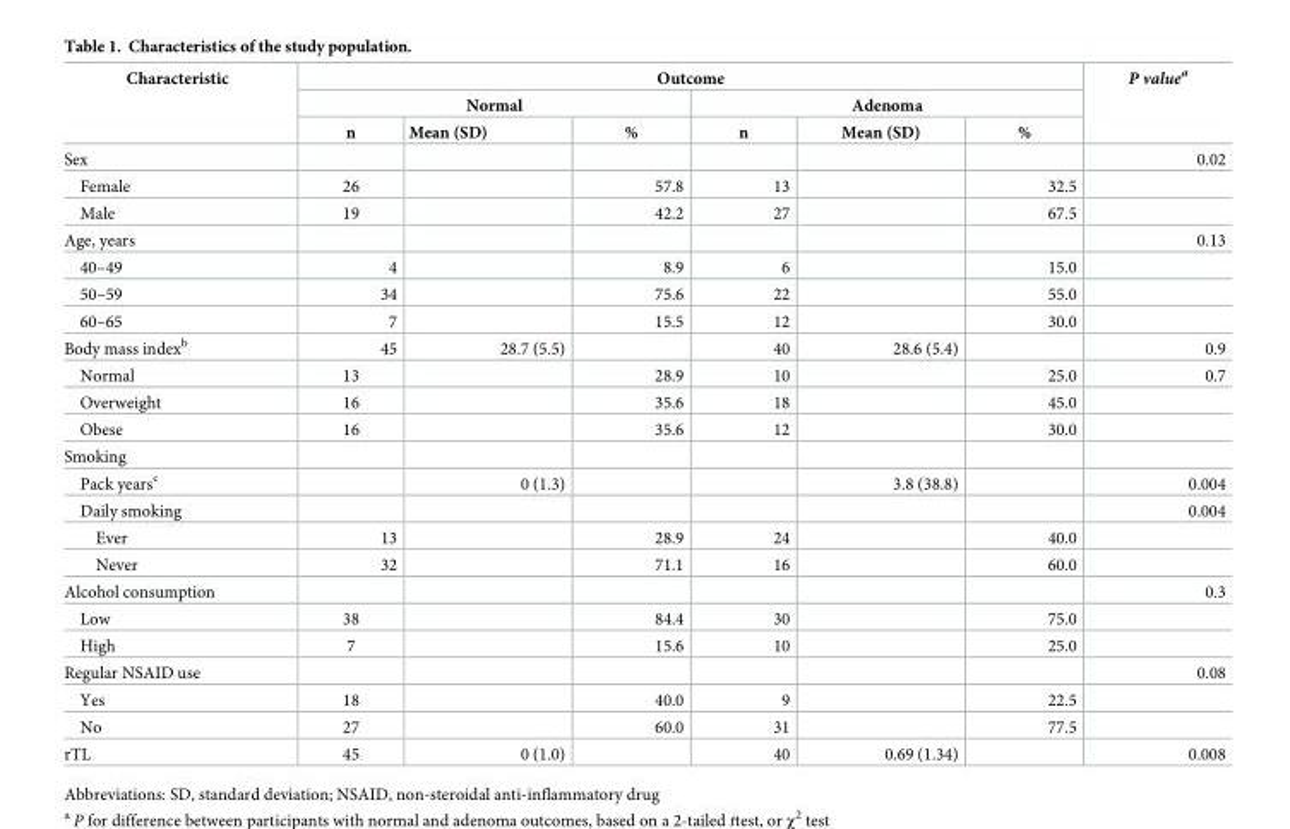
<table><thead><tr><td rowspan="3">Characteristic</td><td colspan="6">Outcome</td><td rowspan="3">P value<sup>a</sup></td></tr><tr><td colspan="3">Normal</td><td colspan="3">Adenoma</td></tr><tr><td>n</td><td>Mean (SD)</td><td>%</td><td>n</td><td>Mean (SD)</td><td>%</td></tr></thead><tbody><tr><td>Sex</td><td></td><td></td><td></td><td></td><td></td><td></td><td>0.02</td></tr><tr><td>Female</td><td>26</td><td></td><td>57.8</td><td>13</td><td></td><td>32.5</td><td></td></tr><tr><td>Male</td><td>19</td><td></td><td>42.2</td><td>27</td><td></td><td>67.5</td><td></td></tr><tr><td>Age, years</td><td></td><td></td><td></td><td></td><td></td><td></td><td>0.13</td></tr><tr><td>40–49</td><td>4</td><td></td><td>8.9</td><td>6</td><td></td><td>15.0</td><td></td></tr><tr><td>50–59</td><td>34</td><td></td><td>75.6</td><td>22</td><td></td><td>55.0</td><td></td></tr><tr><td>60–65</td><td>7</td><td></td><td>15.5</td><td>12</td><td></td><td>30.0</td><td></td></tr><tr><td>Body mass index<sup>b</sup></td><td>45</td><td>28.7 (5.5)</td><td></td><td>40</td><td>28.6 (5.4)</td><td></td><td>0.9</td></tr><tr><td>Normal</td><td>13</td><td></td><td>28.9</td><td>10</td><td></td><td>25.0</td><td>0.7</td></tr><tr><td>Overweight</td><td>16</td><td></td><td>35.6</td><td>18</td><td></td><td>45.0</td><td></td></tr><tr><td>Obese</td><td>16</td><td></td><td>35.6</td><td>12</td><td></td><td>30.0</td><td></td></tr><tr><td colspan="8">Smoking</td></tr><tr><td>Pack years<sup>c</sup></td><td></td><td>0 (1.3)</td><td></td><td></td><td>3.8 (38.8)</td><td></td><td>0.004</td></tr><tr><td>Daily smoking</td><td></td><td></td><td></td><td></td><td></td><td></td><td>0.004</td></tr><tr><td>Ever</td><td>13</td><td></td><td>28.9</td><td>24</td><td></td><td>40.0</td><td></td></tr><tr><td>Never</td><td>32</td><td></td><td>71.1</td><td>16</td><td></td><td>60.0</td><td></td></tr><tr><td>Alcohol consumption</td><td></td><td></td><td></td><td></td><td></td><td></td><td>0.3</td></tr><tr><td>Low</td><td>38</td><td></td><td>84.4</td><td>30</td><td></td><td>75.0</td><td></td></tr><tr><td>High</td><td>7</td><td></td><td>15.6</td><td>10</td><td></td><td>25.0</td><td></td></tr><tr><td>Regular NSAID use</td><td></td><td></td><td></td><td></td><td></td><td></td><td>0.08</td></tr><tr><td>Yes</td><td>18</td><td></td><td>40.0</td><td>9</td><td></td><td>22.5</td><td></td></tr><tr><td>No</td><td>27</td><td></td><td>60.0</td><td>31</td><td></td><td>77.5</td><td></td></tr><tr><td>rTL</td><td>45</td><td>0 (1.0)</td><td></td><td>40</td><td>0.69 (1.34)</td><td></td><td>0.008</td></tr></tbody></table>